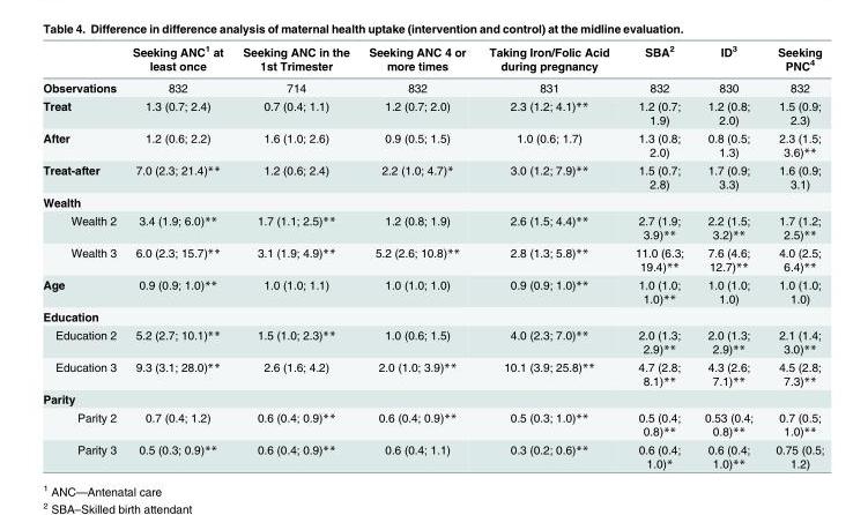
<table><thead><tr><td></td><td>Seeking ANC<sup>1</sup> at least once</td><td>Seeking ANC in the 1st Trimester</td><td>Seeking ANC 4 or more times</td><td>Taking Iron/Folic Acid during pregnancy</td><td>SBA<sup>2</sup></td><td>ID<sup>3</sup></td><td>Seeking PNC<sup>4</sup></td></tr></thead><tbody><tr><td>Observations</td><td>832</td><td>714</td><td>832</td><td>831</td><td>832</td><td>830</td><td>832</td></tr><tr><td>Treat</td><td>1.3 (0.7; 2.4)</td><td>0.7 (0.4; 1.1)</td><td>1.2 (0.7; 2.0)</td><td>2.3 (1.2; 4.1)**</td><td>1.2 (0.7; 1.9)</td><td>1.2 (0.8; 2.0)</td><td>1.5 (0.9; 2.3)</td></tr><tr><td>After</td><td>1.2 (0.6; 2.2)</td><td>1.6 (1.0; 2.6)</td><td>0.9 (0.5; 1.5)</td><td>1.0 (0.6; 1.7)</td><td>1.3 (0.8; 2.0)</td><td>0.8 (0.5; 1.3)</td><td>2.3 (1.5; 3.6)**</td></tr><tr><td>Treat-after</td><td>7.0 (2.3; 21.4)**</td><td>1.2 (0.6; 2.4)</td><td>2.2 (1.0; 4.7)*</td><td>3.0 (1.2; 7.9)**</td><td>1.5 (0.7; 2.8)</td><td>1.7 (0.9; 3.3)</td><td>1.6 (0.9; 3.1)</td></tr><tr><td colspan="8">Wealth</td></tr><tr><td>Wealth 2</td><td>3.4 (1.9; 6.0)**</td><td>1.7 (1.1; 2.5)**</td><td>1.2 (0.8; 1.9)</td><td>2.6 (1.5; 4.4)**</td><td>2.7 (1.9; 3.9)**</td><td>2.2 (1.5; 3.2)**</td><td>1.7 (1.2; 2.5)**</td></tr><tr><td>Wealth 3</td><td>6.0 (2.3; 15.7)**</td><td>3.1 (1.9; 4.9)**</td><td>5.2 (2.6; 10.8)**</td><td>2.8 (1.3; 5.8)**</td><td>11.0 (6.3; 19.4)**</td><td>7.6 (4.6; 12.7)**</td><td>4.0 (2.5; 6.4)**</td></tr><tr><td>Age</td><td>0.9 (0.9; 1.0)**</td><td>1.0 (1.0; 1.1)</td><td>1.0 (1.0; 1.0)</td><td>0.9 (0.9; 1.0)**</td><td>1.0 (1.0; 1.0)**</td><td>1.0 (1.0; 1.0)</td><td>1.0 (1.0; 1.0)</td></tr><tr><td colspan="8">Education</td></tr><tr><td>Education 2</td><td>5.2 (2.7; 10.1)**</td><td>1.5 (1.0; 2.3)**</td><td>1.0 (0.6; 1.5)</td><td>4.0 (2.3; 7.0)**</td><td>2.0 (1.3; 2.9)**</td><td>2.0 (1.3; 2.9)**</td><td>2.1 (1.4; 3.0)**</td></tr><tr><td>Education 3</td><td>9.3 (3.1; 28.0)**</td><td>2.6 (1.6; 4.2)</td><td>2.0 (1.0; 3.9)**</td><td>10.1 (3.9; 25.8)**</td><td>4.7 (2.8; 8.1)**</td><td>4.3 (2.6; 7.1)**</td><td>4.5 (2.8; 7.3)**</td></tr><tr><td colspan="8">Parity</td></tr><tr><td>Parity 2</td><td>0.7 (0.4; 1.2)</td><td>0.6 (0.4; 0.9)**</td><td>0.6 (0.4; 0.9)**</td><td>0.5 (0.3; 1.0)**</td><td>0.5 (0.4; 0.8)**</td><td>0.53 (0.4; 0.8)**</td><td>0.7 (0.5; 1.0)**</td></tr><tr><td>Parity 3</td><td>0.5 (0.3; 0.9)**</td><td>0.6 (0.4; 0.9)**</td><td>0.6 (0.4; 1.1)</td><td>0.3 (0.2; 0.6)**</td><td>0.6 (0.4; 1.0)*</td><td>0.6 (0.4; 1.0)**</td><td>0.75 (0.5; 1.2)</td></tr></tbody></table>